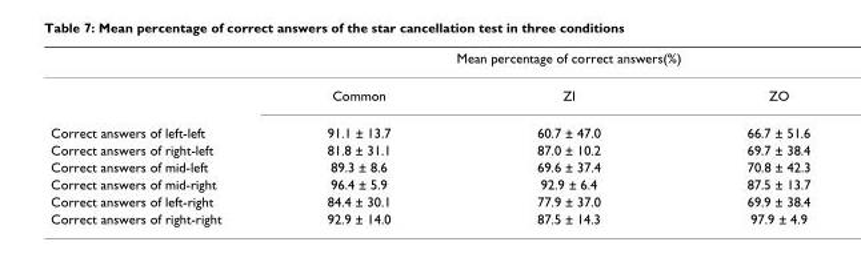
<table><thead><tr><td rowspan="2"></td><td colspan="3">Mean percentage of correct answers(%)</td></tr><tr><td>Common</td><td>ZI</td><td>ZO</td></tr></thead><tbody><tr><td>Correct answers of left-left</td><td>91.1 ± 13.7</td><td>60.7 ± 47.0</td><td>66.7 ± 51.6</td></tr><tr><td>Correct answers of right-left</td><td>81.8 ± 31.1</td><td>87.0 ± 10.2</td><td>69.7 ± 38.4</td></tr><tr><td>Correct answers of mid-left</td><td>89.3 ± 8.6</td><td>69.6 ± 37.4</td><td>70.8 ± 42.3</td></tr><tr><td>Correct answers of mid-right</td><td>96.4 ± 5.9</td><td>92.9 ± 6.4</td><td>87.5 ± 13.7</td></tr><tr><td>Correct answers of left-right</td><td>84.4 ± 30.1</td><td>77.9 ± 37.0</td><td>69.9 ± 38.4</td></tr><tr><td>Correct answers of right-right</td><td>92.9 ± 14.0</td><td>87.5 ± 14.3</td><td>97.9 ± 4.9</td></tr></tbody></table>